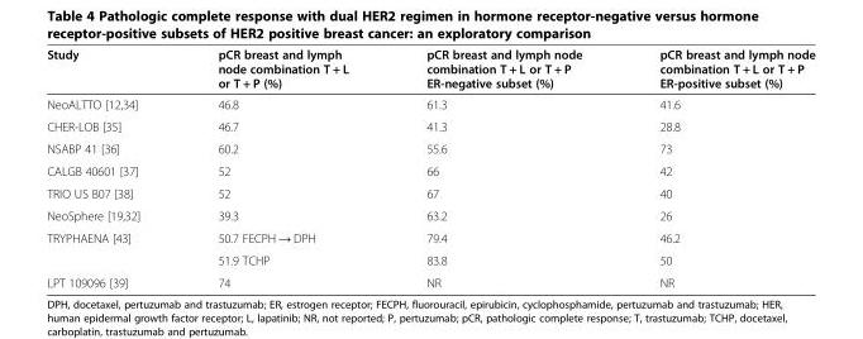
<table><thead><tr><td>Study</td><td>pCR breast and lymph node combination T + L or T + P (%)</td><td>pCR breast and lymph node combination T + L or T + P ER-negative subset (%)</td><td>pCR breast and lymph node combination T + L or T + P ER-positive subset (%)</td></tr></thead><tbody><tr><td>NeoALTTO [12,34]</td><td>46.8</td><td>61.3</td><td>41.6</td></tr><tr><td>CHER-LOB [35]</td><td>46.7</td><td>41.3</td><td>28.8</td></tr><tr><td>NSABP 41 [36]</td><td>60.2</td><td>55.6</td><td>73</td></tr><tr><td>CALGB 40601 [37]</td><td>52</td><td>66</td><td>42</td></tr><tr><td>TRIO US B07 [38]</td><td>52</td><td>67</td><td>40</td></tr><tr><td>NeoSphere [19,32]</td><td>39.3</td><td>63.2</td><td>26</td></tr><tr><td rowspan="2">TRYPHAENA [43]</td><td>50.7 FECPH → DPH</td><td>79.4</td><td>46.2</td></tr><tr><td>51.9 TCHP</td><td>83.8</td><td>50</td></tr><tr><td>LPT 109096 [39]</td><td>74</td><td>NR</td><td>NR</td></tr></tbody></table>